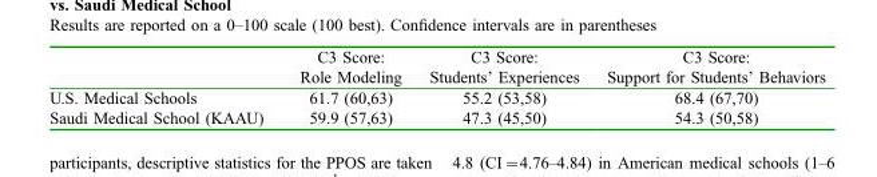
<table><thead><tr><td></td><td>C3 Score: Role Modeling</td><td>C3 Score: Students’ Experiences</td><td>C3 Score: Support for Students’ Behaviors</td></tr></thead><tbody><tr><td>U.S. Medical Schools</td><td>61.7 (60,63)</td><td>55.2 (53,58)</td><td>68.4 (67,70)</td></tr><tr><td>Saudi Medical School (KAAU)</td><td>59.9 (57,63)</td><td>47.3 (45,50)</td><td>54.3 (50,58)</td></tr></tbody></table>